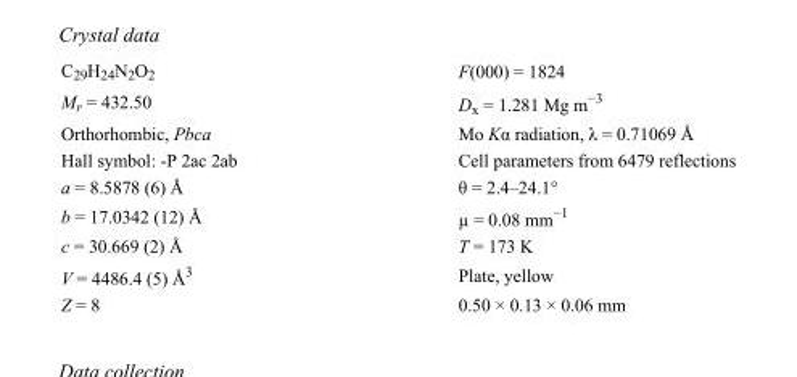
<table><tbody><tr><td>C<sub>29</sub>H<sub>24</sub>N<sub>2</sub>O<sub>2</sub></td><td>F(000) = 1824</td></tr><tr><td>M<sub>r</sub> = 432.50</td><td>D<sub>x</sub> = 1.281 Mg m<sup>−3</sup></td></tr><tr><td>Orthorhombic, Pbca</td><td>Mo Kα radiation, λ = 0.71069 Å</td></tr><tr><td>Hall symbol: -P 2ac 2ab</td><td>Cell parameters from 6479 reflections</td></tr><tr><td>a = 8.5878 (6) Å</td><td>θ = 2.4–24.1°</td></tr><tr><td>b = 17.0342 (12) Å</td><td>µ = 0.08 mm<sup>−1</sup></td></tr><tr><td>c = 30.669 (2) Å</td><td>T = 173 K</td></tr><tr><td>V = 4486.4 (5) Å<sup>3</sup></td><td>Plate, yellow</td></tr><tr><td>Z = 8</td><td>0.50 × 0.13 × 0.06 mm</td></tr></tbody></table>